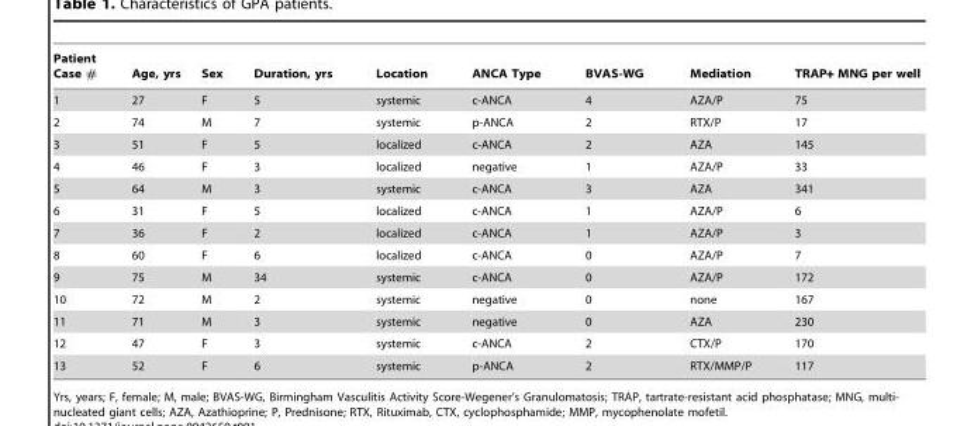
<table><thead><tr><td>Patient Case #</td><td>Age, yrs</td><td>Sex</td><td>Duration, yrs</td><td>Location</td><td>ANCA Type</td><td>BVAS-WG</td><td>Mediation</td><td>TRAP+ MNG per well</td></tr></thead><tbody><tr><td>1</td><td>27</td><td>F</td><td>5</td><td>systemic</td><td>c-ANCA</td><td>4</td><td>AZA/P</td><td>75</td></tr><tr><td>2</td><td>74</td><td>M</td><td>7</td><td>systemic</td><td>p-ANCA</td><td>2</td><td>RTX/P</td><td>17</td></tr><tr><td>3</td><td>51</td><td>F</td><td>5</td><td>localized</td><td>c-ANCA</td><td>2</td><td>AZA</td><td>145</td></tr><tr><td>4</td><td>46</td><td>F</td><td>3</td><td>localized</td><td>negative</td><td>1</td><td>AZA/P</td><td>33</td></tr><tr><td>5</td><td>64</td><td>M</td><td>3</td><td>systemic</td><td>c-ANCA</td><td>3</td><td>AZA</td><td>341</td></tr><tr><td>6</td><td>31</td><td>F</td><td>5</td><td>localized</td><td>c-ANCA</td><td>1</td><td>AZA/P</td><td>6</td></tr><tr><td>7</td><td>36</td><td>F</td><td>2</td><td>localized</td><td>c-ANCA</td><td>1</td><td>AZA/P</td><td>3</td></tr><tr><td>8</td><td>60</td><td>F</td><td>6</td><td>localized</td><td>c-ANCA</td><td>0</td><td>AZA/P</td><td>7</td></tr><tr><td>9</td><td>75</td><td>M</td><td>34</td><td>systemic</td><td>c-ANCA</td><td>0</td><td>AZA/P</td><td>172</td></tr><tr><td>10</td><td>72</td><td>M</td><td>2</td><td>systemic</td><td>negative</td><td>0</td><td>none</td><td>167</td></tr><tr><td>11</td><td>71</td><td>M</td><td>3</td><td>systemic</td><td>negative</td><td>0</td><td>AZA</td><td>230</td></tr><tr><td>12</td><td>47</td><td>F</td><td>3</td><td>systemic</td><td>c-ANCA</td><td>2</td><td>CTX/P</td><td>170</td></tr><tr><td>13</td><td>52</td><td>F</td><td>6</td><td>systemic</td><td>p-ANCA</td><td>2</td><td>RTX/MMP/P</td><td>117</td></tr></tbody></table>